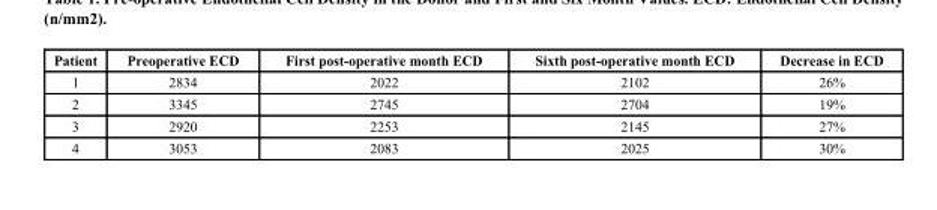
<table><thead><tr><td>Patient</td><td>Preoperative ECD</td><td>First post-operative month ECD</td><td>Sixth post-operative month ECD</td><td>Decrease in ECD</td></tr></thead><tbody><tr><td>1</td><td>2834</td><td>2022</td><td>2102</td><td>26%</td></tr><tr><td>2</td><td>3345</td><td>2745</td><td>2704</td><td>19%</td></tr><tr><td>3</td><td>2920</td><td>2253</td><td>2145</td><td>27%</td></tr><tr><td>4</td><td>3053</td><td>2083</td><td>2025</td><td>30%</td></tr></tbody></table>